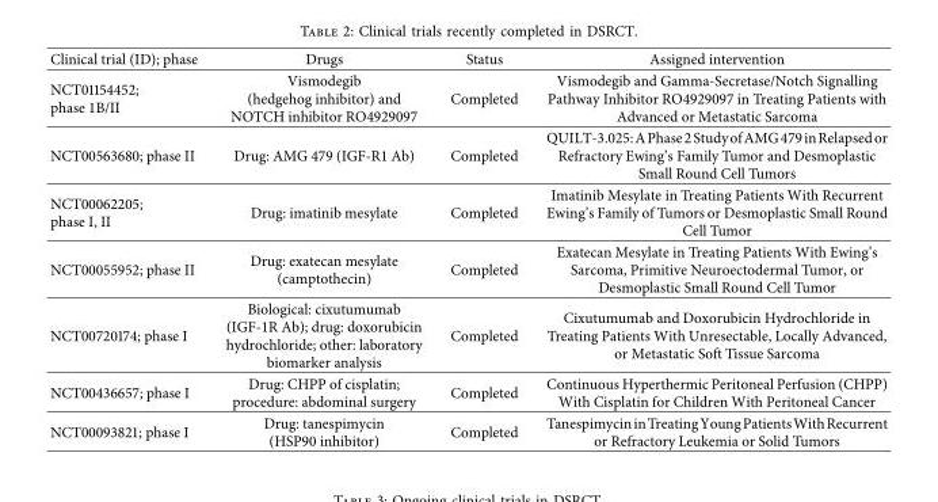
<table><thead><tr><td>Clinical trial (ID); phase</td><td>Drugs</td><td>Status</td><td>Assigned intervention</td></tr></thead><tbody><tr><td>NCT01154452; phase 1B/II</td><td>Vismodegib (hedgehog inhibitor) and NOTCH inhibitor RO4929097</td><td>Completed</td><td>Vismodegib and Gamma-Secretase/Notch Signalling Pathway Inhibitor RO4929097 in Treating Patients with Advanced or Metastatic Sarcoma</td></tr><tr><td>NCT00563680; phase II</td><td>Drug: AMG 479 (IGF-R1 Ab)</td><td>Completed</td><td>QUILT-3.025:APhase2StudyofAMG479inRelapsedor Refractory Ewing’s Family Tumor and Desmoplastic Small Round Cell Tumors</td></tr><tr><td>NCT00062205; phase I, II</td><td>Drug: imatinib mesylate</td><td>Completed</td><td>Imatinib Mesylate in Treating Patients With Recurrent Ewing’s Family of Tumors or Desmoplastic Small Round Cell Tumor</td></tr><tr><td>NCT00055952; phase II</td><td>Drug: exatecan mesylate (camptothecin)</td><td>Completed</td><td>Exatecan Mesylate in Treating Patients With Ewing’s Sarcoma, Primitive Neuroectodermal Tumor, or Desmoplastic Small Round Cell Tumor</td></tr><tr><td>NCT00720174; phase I</td><td>Biological: cixutumumab (IGF-1R Ab); drug: doxorubicin hydrochloride; other: laboratory biomarker analysis</td><td>Completed</td><td>Cixutumumab and Doxorubicin Hydrochloride in Treating Patients With Unresectable, Locally Advanced, or Metastatic Soft Tissue Sarcoma</td></tr><tr><td>NCT00436657; phase I</td><td>Drug: CHPP of cisplatin; procedure: abdominal surgery</td><td>Completed</td><td>Continuous Hyperthermic Peritoneal Perfusion (CHPP) With Cisplatin for Children With Peritoneal Cancer</td></tr><tr><td>NCT00093821; phase I</td><td>Drug: tanespimycin (HSP90 inhibitor)</td><td>Completed</td><td>TanespimycininTreatingYoungPatientsWithRecurrent or Refractory Leukemia or Solid Tumors</td></tr></tbody></table>